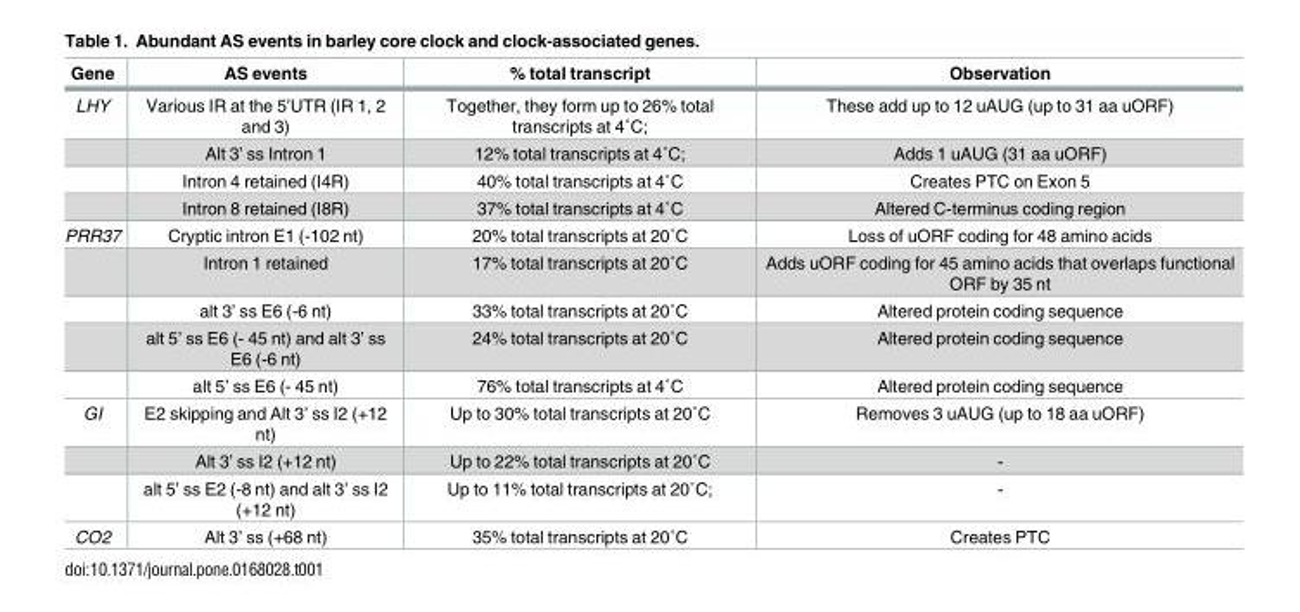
<table><thead><tr><td>Gene</td><td>AS events</td><td>% total transcript</td><td>Observation</td></tr></thead><tbody><tr><td rowspan="4">LHY</td><td>Various IR at the 5’UTR (IR 1, 2 and 3)</td><td>Together, they form up to 26% total transcripts at 4˚C;</td><td>These add up to 12 uAUG (up to 31 aa uORF)</td></tr><tr><td>Alt 3’ ss Intron 1</td><td>12% total transcripts at 4˚C;</td><td>Adds 1 uAUG (31 aa uORF)</td></tr><tr><td>Intron 4 retained (I4R)</td><td>40% total transcripts at 4˚C</td><td>Creates PTC on Exon 5</td></tr><tr><td>Intron 8 retained (I8R)</td><td>37% total transcripts at 4˚C</td><td>Altered C-terminus coding region</td></tr><tr><td rowspan="5">PRR37</td><td>Cryptic intron E1 (-102 nt)</td><td>20% total transcripts at 20˚C</td><td>Loss of uORF coding for 48 amino acids</td></tr><tr><td>Intron 1 retained</td><td>17% total transcripts at 20˚C</td><td>Adds uORF coding for 45 amino acids that overlaps functional ORF by 35 nt</td></tr><tr><td>alt 3’ ss E6 (-6 nt)</td><td>33% total transcripts at 20˚C</td><td>Altered protein coding sequence</td></tr><tr><td>alt 5’ ss E6 (- 45 nt) and alt 3’ ss E6 (-6 nt)</td><td>24% total transcripts at 20˚C</td><td>Altered protein coding sequence</td></tr><tr><td>alt 5’ ss E6 (- 45 nt)</td><td>76% total transcripts at 4˚C</td><td>Altered protein coding sequence</td></tr><tr><td rowspan="3">GI</td><td>E2 skipping and Alt 3’ ss I2 (+12 nt)</td><td>Up to 30% total transcripts at 20˚C</td><td>Removes 3 uAUG (up to 18 aa uORF)</td></tr><tr><td>Alt 3’ ss I2 (+12 nt)</td><td>Up to 22% total transcripts at 20˚C</td><td>-</td></tr><tr><td>alt 5’ ss E2 (-8 nt) and alt 3’ ss I2 (+12 nt)</td><td>Up to 11% total transcripts at 20˚C;</td><td>-</td></tr><tr><td>CO2</td><td>Alt 3’ ss (+68 nt)</td><td>35% total transcripts at 20˚C</td><td>Creates PTC</td></tr></tbody></table>